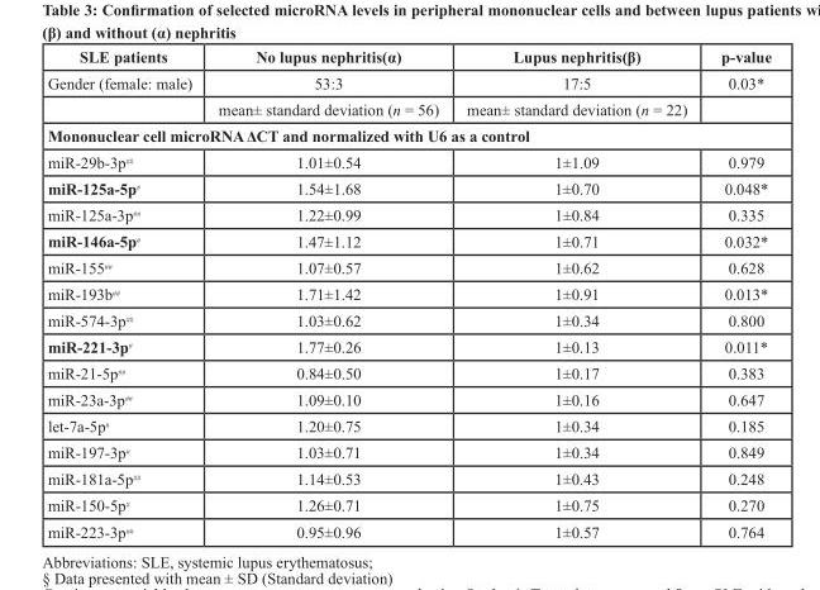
<table><thead><tr><td>SLE patients</td><td>No lupus nephritis(α)</td><td>Lupus nephritis(β)</td><td>p-value</td></tr></thead><tbody><tr><td rowspan="2">Gender (female: male)</td><td>53:3</td><td>17:5</td><td>0.03*</td></tr><tr><td>mean± standard deviation (n = 56)</td><td>mean± standard deviation (n = 22)</td><td></td></tr><tr><td colspan="4">Mononuclear cell microRNA ΔCT and normalized with U6 as a control</td></tr><tr><td>miR-29b-3p<sup>##</sup></td><td>1.01±0.54</td><td>1±1.09</td><td>0.979</td></tr><tr><td>miR-125a-5p<sup>#</sup></td><td>1.54±1.68</td><td>1±0.70</td><td>0.048*</td></tr><tr><td>miR-125a-3p<sup>##</sup></td><td>1.22±0.99</td><td>1±0.84</td><td>0.335</td></tr><tr><td>miR-146a-5p<sup>#</sup></td><td>1.47±1.12</td><td>1±0.71</td><td>0.032*</td></tr><tr><td>miR-155<sup>##</sup></td><td>1.07±0.57</td><td>1±0.62</td><td>0.628</td></tr><tr><td>miR-193b<sup>##</sup></td><td>1.71±1.42</td><td>1±0.91</td><td>0.013*</td></tr><tr><td>miR-574-3p<sup>##</sup></td><td>1.03±0.62</td><td>1±0.34</td><td>0.800</td></tr><tr><td>miR-221-3p<sup>#</sup></td><td>1.77±0.26</td><td>1±0.13</td><td>0.011*</td></tr><tr><td>miR-21-5p<sup>##</sup></td><td>0.84±0.50</td><td>1±0.17</td><td>0.383</td></tr><tr><td>miR-23a-3p<sup>##</sup></td><td>1.09±0.10</td><td>1±0.16</td><td>0.647</td></tr><tr><td>let-7a-5p<sup>#</sup></td><td>1.20±0.75</td><td>1±0.34</td><td>0.185</td></tr><tr><td>miR-197-3p<sup>#</sup></td><td>1.03±0.71</td><td>1±0.34</td><td>0.849</td></tr><tr><td>miR-181a-5p<sup>##</sup></td><td>1.14±0.53</td><td>1±0.43</td><td>0.248</td></tr><tr><td>miR-150-5p<sup>#</sup></td><td>1.26±0.71</td><td>1±0.75</td><td>0.270</td></tr><tr><td>miR-223-3p<sup>##</sup></td><td>0.95±0.96</td><td>1±0.57</td><td>0.764</td></tr></tbody></table>